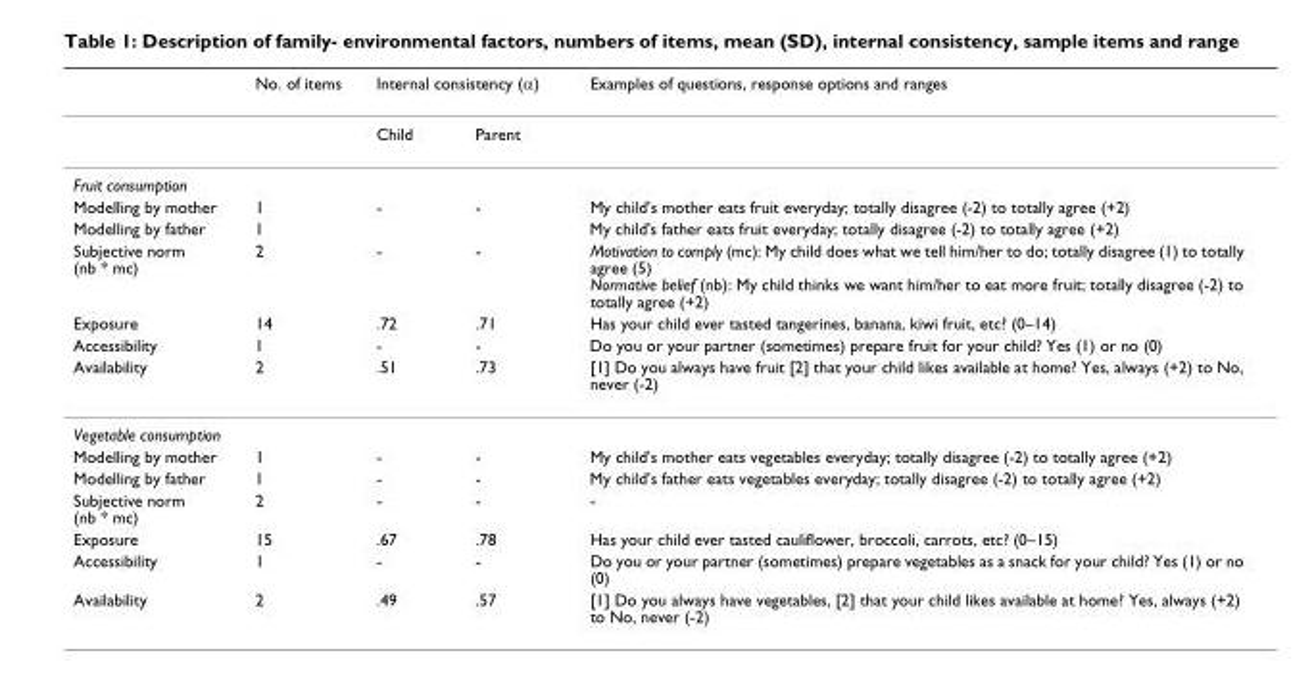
<table><thead><tr><td rowspan="2"></td><td rowspan="2">No. of items</td><td colspan="2">Internal consistency (α)</td><td rowspan="2">Examples of questions, response options and ranges</td></tr><tr><td>Child</td><td>Parent</td></tr></thead><tbody><tr><td colspan="5">Fruit consumption</td></tr><tr><td>Modelling by mother</td><td>1</td><td>-</td><td>-</td><td>My child&#x27;s mother eats fruit everyday; totally disagree (-2) to totally agree (+2)</td></tr><tr><td>Modelling by father</td><td>1</td><td></td><td></td><td>My child&#x27;s father eats fruit everyday; totally disagree (-2) to totally agree (+2)</td></tr><tr><td>Subjective norm (nb * mc)</td><td>2</td><td>-</td><td>-</td><td>Motivation to comply (mc): My child does what we tell him/her to do; totally disagree (1) to totally agree (5) Normative belief (nb): My child thinks we want him/her to eat more fruit; totally disagree (-2) to totally agree (+2)</td></tr><tr><td>Exposure</td><td>14</td><td>.72</td><td>.71</td><td>Has your child ever tasted tangerines, banana, kiwi fruit, etc? (0–14)</td></tr><tr><td>Accessibility</td><td>1</td><td>-</td><td>-</td><td>Do you or your partner (sometimes) prepare fruit for your child? Yes (1) or no (0)</td></tr><tr><td>Availability</td><td>2</td><td>.51</td><td>.73</td><td>[1] Do you always have fruit [2] that your child likes available at home? Yes, always (+2) to No, never (-2)</td></tr><tr><td colspan="5">Vegetable consumption</td></tr><tr><td>Modelling by mother</td><td>1</td><td>-</td><td>-</td><td>My child&#x27;s mother eats vegetables everyday; totally disagree (-2) to totally agree (+2)</td></tr><tr><td>Modelling by father</td><td>1</td><td>-</td><td>-</td><td>My child&#x27;s father eats vegetables everyday; totally disagree (-2) to totally agree (+2)</td></tr><tr><td>Subjective norm (nb * mc)</td><td>2</td><td>-</td><td>-</td><td>-</td></tr><tr><td>Exposure</td><td>15</td><td>.67</td><td>.78</td><td>Has your child ever tasted cauliflower, broccoli, carrots, etc? (0–15)</td></tr><tr><td>Accessibility</td><td>1</td><td>-</td><td>-</td><td>Do you or your partner (sometimes) prepare vegetables as a snack for your child? Yes (1) or no (0)</td></tr><tr><td>Availability</td><td>2</td><td>.49</td><td>.57</td><td>[1] Do you always have vegetables, [2] that your child likes available at home? Yes, always (+2) to No, never (-2)</td></tr></tbody></table>